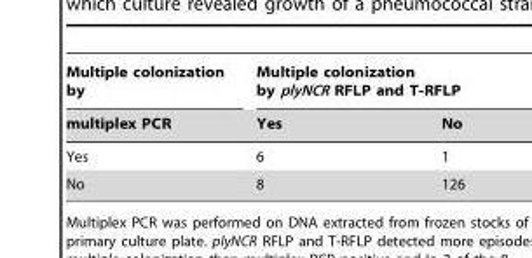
<table><thead><tr><td rowspan="2">Multiple colonization by multiplex PCR</td><td colspan="2">Multiple colonization by plyNCR RFLP and T-RFLP</td></tr><tr><td>Yes</td><td>No</td></tr></thead><tbody><tr><td>Yes</td><td>6</td><td>1</td></tr><tr><td>No</td><td>8</td><td>126</td></tr></tbody></table>